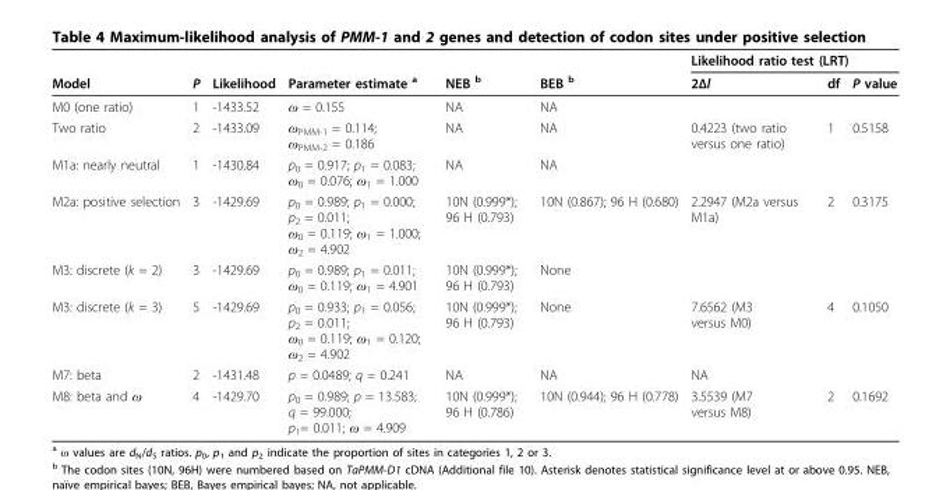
<table><thead><tr><td rowspan="2">Model</td><td rowspan="2">P</td><td rowspan="2">Likelihood</td><td rowspan="2">Parameter estimate <sup>a</sup></td><td rowspan="2">NEB <sup>b</sup></td><td rowspan="2">BEB <sup>b</sup></td><td colspan="3">Likelihood ratio test (LRT)</td></tr><tr><td>2Δl</td><td>df</td><td>P value</td></tr></thead><tbody><tr><td>M0 (one ratio)</td><td>1</td><td>-1433.52</td><td>ω = 0.155</td><td>NA</td><td>NA</td><td></td><td></td><td></td></tr><tr><td>Two ratio</td><td>2</td><td>-1433.09</td><td>ω<sub>PMM-1</sub> = 0.114; ω<sub>PMM-2</sub> = 0.186</td><td>NA</td><td>NA</td><td>0.4223 (two ratio versus one ratio)</td><td>1</td><td>0.5158</td></tr><tr><td>M1a: nearly neutral</td><td>1</td><td>-1430.84</td><td>p<sub>0</sub> = 0.917; p<sub>1</sub> = 0.083; ω<sub>0</sub> = 0.076; ω<sub>1</sub> = 1.000</td><td>NA</td><td>NA</td><td></td><td></td><td></td></tr><tr><td>M2a: positive selection</td><td>3</td><td>-1429.69</td><td>p<sub>0</sub> = 0.989; p<sub>1</sub> = 0.000; p<sub>2</sub> = 0.011; ω<sub>0</sub> = 0.119; ω<sub>1</sub> = 1.000; ω<sub>2</sub> = 4.902</td><td>10N (0.999*); 96 H (0.793)</td><td>10N (0.867); 96 H (0.680)</td><td>2.2947 (M2a versus M1a)</td><td>2</td><td>0.3175</td></tr><tr><td>M3: discrete (k = 2)</td><td>3</td><td>-1429.69</td><td>p<sub>0</sub> = 0.989; p<sub>1</sub> = 0.011; ω<sub>0</sub> = 0.119; ω<sub>1</sub> = 4.901</td><td>10N (0.999*); 96 H (0.793)</td><td>None</td><td></td><td></td><td></td></tr><tr><td>M3: discrete (k = 3)</td><td>5</td><td>-1429.69</td><td>p<sub>0</sub> = 0.933; p<sub>1</sub> = 0.056; p<sub>2</sub> = 0.011; ω<sub>0</sub> = 0.119; ω<sub>1</sub> = 0.120; ω<sub>2</sub> = 4.902</td><td>10N (0.999*); 96 H (0.793)</td><td>None</td><td>7.6562 (M3 versus M0)</td><td>4</td><td>0.1050</td></tr><tr><td>M7: beta</td><td>2</td><td>-1431.48</td><td>p = 0.0489; q = 0.241</td><td>NA</td><td>NA</td><td>NA</td><td></td><td></td></tr><tr><td>M8: beta and ω</td><td>4</td><td>-1429.70</td><td>p<sub>0</sub> = 0.989; p = 13.583; q = 99.000; p<sub>1</sub>= 0.011; ω = 4.909</td><td>10N (0.999*); 96 H (0.786)</td><td>10N (0.944); 96 H (0.778)</td><td>3.5539 (M7 versus M8)</td><td>2</td><td>0.1692</td></tr></tbody></table>